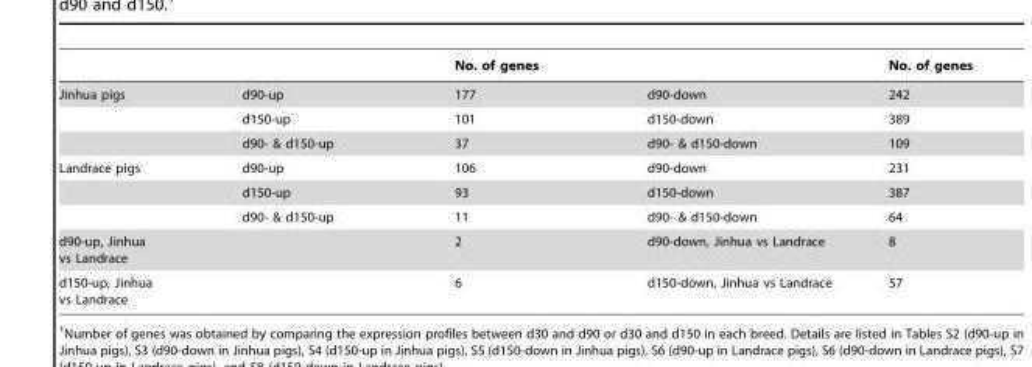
<table><thead><tr><td></td><td></td><td>No. of genes</td><td></td><td>No. of genes</td></tr></thead><tbody><tr><td rowspan="3">Jinhua pigs</td><td>d90-up</td><td>177</td><td>d90-down</td><td>242</td></tr><tr><td>d150-up</td><td>101</td><td>d150-down</td><td>389</td></tr><tr><td>d90- &amp; d150-up</td><td>37</td><td>d90- &amp; d150-down</td><td>109</td></tr><tr><td rowspan="3">Landrace pigs</td><td>d90-up</td><td>106</td><td>d90-down</td><td>231</td></tr><tr><td>d150-up</td><td>93</td><td>d150-down</td><td>387</td></tr><tr><td>d90- &amp; d150-up</td><td>11</td><td>d90- &amp; d150-down</td><td>64</td></tr><tr><td colspan="2">d90-up, Jinhua vs Landrace</td><td>2</td><td>d90-down, Jinhua vs Landrace</td><td>8</td></tr><tr><td colspan="2">d150-up, Jinhua vs Landrace</td><td>6</td><td>d150-down, Jinhua vs Landrace</td><td>57</td></tr></tbody></table>